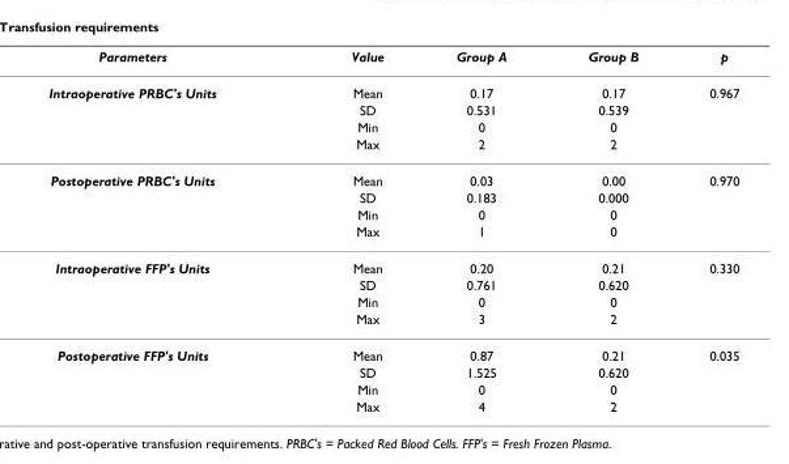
<table><thead><tr><td>Parameters</td><td>Value</td><td>Group A</td><td>Group B</td><td>p</td></tr></thead><tbody><tr><td rowspan="4">Intraoperative PRBC&#x27;s Units</td><td>Mean</td><td>0.17</td><td>0.17</td><td>0.967</td></tr><tr><td>SD</td><td>0.531</td><td>0.539</td><td></td></tr><tr><td>Min</td><td>0</td><td>0</td><td></td></tr><tr><td>Max</td><td>2</td><td>2</td><td></td></tr><tr><td rowspan="4">Postoperative PRBC&#x27;s Units</td><td>Mean</td><td>0.03</td><td>0.00</td><td>0.970</td></tr><tr><td>SD</td><td>0.183</td><td>0.000</td><td></td></tr><tr><td>Min</td><td>0</td><td>0</td><td></td></tr><tr><td>Max</td><td>1</td><td>0</td><td></td></tr><tr><td rowspan="4">Intraoperative FFP&#x27;s Units</td><td>Mean</td><td>0.20</td><td>0.21</td><td>0.330</td></tr><tr><td>SD</td><td>0.761</td><td>0.620</td><td></td></tr><tr><td>Min</td><td>0</td><td>0</td><td></td></tr><tr><td>Max</td><td>3</td><td>2</td><td></td></tr><tr><td rowspan="4">Postoperative FFP&#x27;s Units</td><td>Mean</td><td>0.87</td><td>0.21</td><td>0.035</td></tr><tr><td>SD</td><td>1.525</td><td>0.620</td><td></td></tr><tr><td>Min</td><td>0</td><td>0</td><td></td></tr><tr><td>Max</td><td>4</td><td>2</td><td></td></tr></tbody></table>